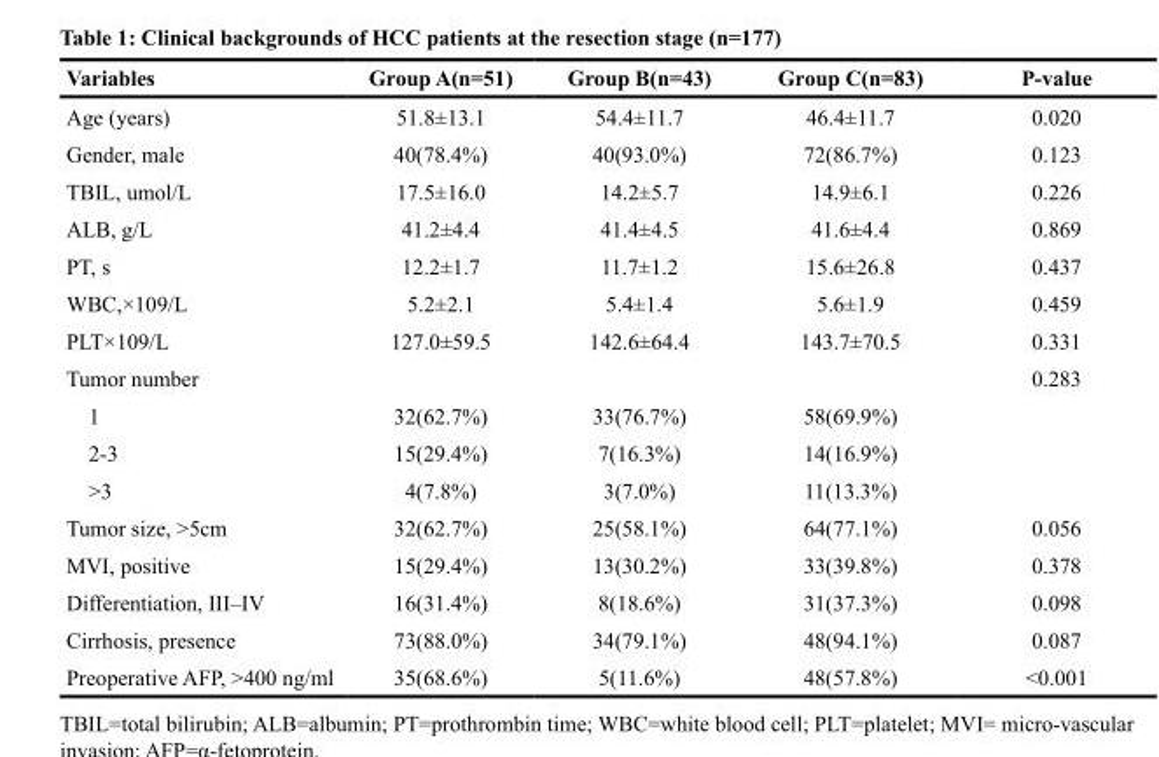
<table><thead><tr><td>Variables</td><td>Group A(n=51)</td><td>Group B(n=43)</td><td>Group C(n=83)</td><td>P-value</td></tr></thead><tbody><tr><td>Age (years)</td><td>51.8±13.1</td><td>54.4±11.7</td><td>46.4±11.7</td><td>0.020</td></tr><tr><td>Gender, male</td><td>40(78.4%)</td><td>40(93.0%)</td><td>72(86.7%)</td><td>0.123</td></tr><tr><td>TBIL, umol/L</td><td>17.5±16.0</td><td>14.2±5.7</td><td>14.9±6.1</td><td>0.226</td></tr><tr><td>ALB, g/L</td><td>41.2±4.4</td><td>41.4±4.5</td><td>41.6±4.4</td><td>0.869</td></tr><tr><td>PT, s</td><td>12.2±1.7</td><td>11.7±1.2</td><td>15.6±26.8</td><td>0.437</td></tr><tr><td>WBC,×109/L</td><td>5.2±2.1</td><td>5.4±1.4</td><td>5.6±1.9</td><td>0.459</td></tr><tr><td>PLT×109/L</td><td>127.0±59.5</td><td>142.6±64.4</td><td>143.7±70.5</td><td>0.331</td></tr><tr><td>Tumor number</td><td></td><td></td><td></td><td>0.283</td></tr><tr><td>1</td><td>32(62.7%)</td><td>33(76.7%)</td><td>58(69.9%)</td><td></td></tr><tr><td>2-3</td><td>15(29.4%)</td><td>7(16.3%)</td><td>14(16.9%)</td><td></td></tr><tr><td>&gt;3</td><td>4(7.8%)</td><td>3(7.0%)</td><td>11(13.3%)</td><td></td></tr><tr><td>Tumor size, &gt;5cm</td><td>32(62.7%)</td><td>25(58.1%)</td><td>64(77.1%)</td><td>0.056</td></tr><tr><td>MVI, positive</td><td>15(29.4%)</td><td>13(30.2%)</td><td>33(39.8%)</td><td>0.378</td></tr><tr><td>Differentiation, III–IV</td><td>16(31.4%)</td><td>8(18.6%)</td><td>31(37.3%)</td><td>0.098</td></tr><tr><td>Cirrhosis, presence</td><td>73(88.0%)</td><td>34(79.1%)</td><td>48(94.1%)</td><td>0.087</td></tr><tr><td>Preoperative AFP, &gt;400 ng/ml</td><td>35(68.6%)</td><td>5(11.6%)</td><td>48(57.8%)</td><td>&lt;0.001</td></tr></tbody></table>